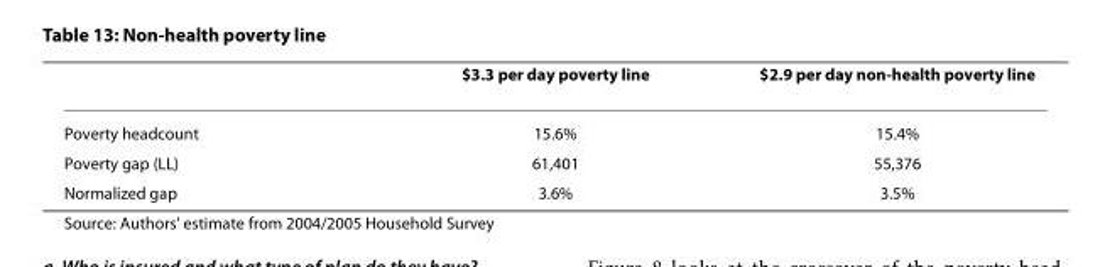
<table><thead><tr><td></td><td>$3.3 per day poverty line</td><td>$2.9 per day non-health poverty line</td></tr></thead><tbody><tr><td>Poverty headcount</td><td>15.6%</td><td>15.4%</td></tr><tr><td>Poverty gap (LL)</td><td>61,401</td><td>55,376</td></tr><tr><td>Normalized gap</td><td>3.6%</td><td>3.5%</td></tr></tbody></table>